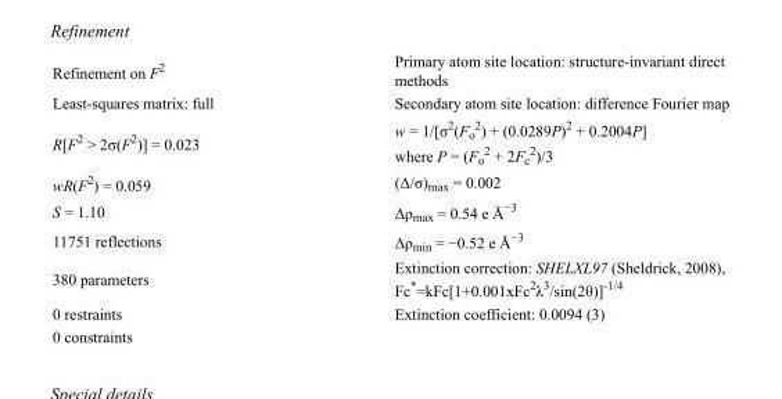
<table><tbody><tr><td>Refinement on F<sup>2</sup></td><td>Primary atom site location: structure-invariant direct methods</td></tr><tr><td>Least-squares matrix: full</td><td>Secondary atom site location: difference Fourier map</td></tr><tr><td>R[F<sup>2</sup> &gt; 2σ(F<sup>2</sup>)] = 0.023</td><td>w = 1/[σ<sup>2</sup>(F<sub>o</sub> <sup>2</sup>) + (0.0289P)<sup>2</sup> + 0.2004P] where P = (F<sub>o</sub> <sup>2</sup> + 2F<sub>c</sub> <sup>2</sup>)/3</td></tr><tr><td>wR(F<sup>2</sup>) = 0.059</td><td>(Δ/σ)<sub>max</sub> = 0.002</td></tr><tr><td>S = 1.10</td><td>Δρ<sub>max</sub> = 0.54 e Å<sup>−3</sup></td></tr><tr><td>11751 reflections</td><td>Δρ<sub>min</sub> = −0.52 e Å<sup>−3</sup></td></tr><tr><td>380 parameters</td><td>Extinction correction: SHELXL97 (Sheldrick, 2008), Fc*=kFc[1+0.001xFc<sup>2</sup>λ<sup>3</sup>/sin(2θ)]<sup>-1/4</sup></td></tr><tr><td>0 restraints</td><td>Extinction coefficient: 0.0094 (3)</td></tr><tr><td>0 constraints</td><td></td></tr></tbody></table>